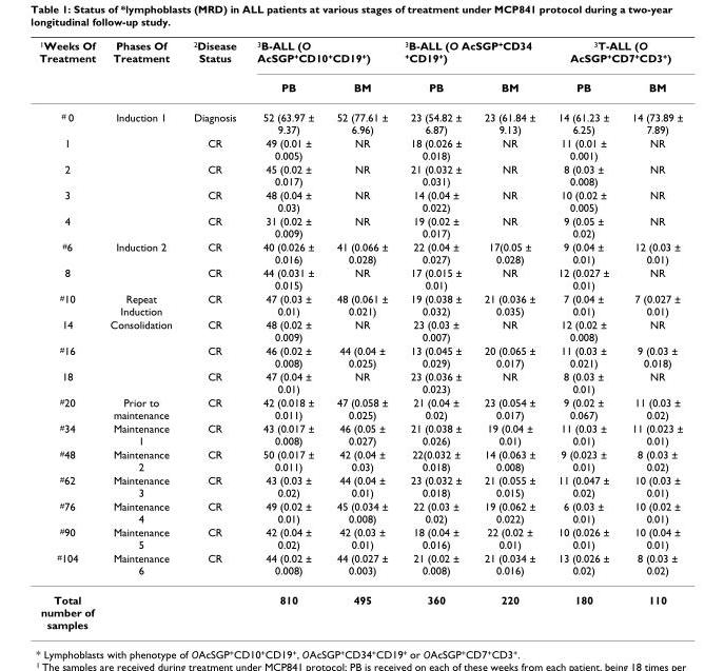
<table><thead><tr><td rowspan="2">1Weeks Of Treatment</td><td rowspan="2">Phases Of Treatment</td><td rowspan="2">2Disease Status</td><td colspan="2">3B-ALL (O AcSGP+CD10+CD19+)</td><td colspan="2">3B-ALL (O AcSGP+CD34 +CD19+)</td><td colspan="2">3T-ALL (O AcSGP+CD7+CD3+)</td></tr><tr><td>PB</td><td>BM</td><td>PB</td><td>BM</td><td>PB</td><td>BM</td></tr></thead><tbody><tr><td># 0</td><td>Induction 1</td><td>Diagnosis</td><td>52 (63.97 ± 9.37)</td><td>52 (77.61 ± 6.96)</td><td>23 (54.82 ± 6.87)</td><td>23 (61.84 ± 9.13)</td><td>14 (61.23 ± 6.25)</td><td>14 (73.89 ± 7.89)</td></tr><tr><td>1</td><td></td><td>CR</td><td>49 (0.01 ± 0.005)</td><td>NR</td><td>18 (0.026 ± 0.018)</td><td>NR</td><td>11 (0.01 ± 0.001)</td><td>NR</td></tr><tr><td>2</td><td></td><td>CR</td><td>45 (0.02 ± 0.017)</td><td>NR</td><td>21 (0.032 ± 0.031)</td><td>NR</td><td>8 (0.03 ± 0.008)</td><td>NR</td></tr><tr><td>3</td><td></td><td>CR</td><td>48 (0.04 ± 0.03)</td><td>NR</td><td>14 (0.04 ± 0.022)</td><td>NR</td><td>10 (0.02 ± 0.005)</td><td>NR</td></tr><tr><td>4</td><td></td><td>CR</td><td>31 (0.02 ± 0.009)</td><td>NR</td><td>19 (0.02 ± 0.017)</td><td>NR</td><td>9 (0.05 ± 0.02)</td><td>NR</td></tr><tr><td>#6</td><td>Induction 2</td><td>CR</td><td>40 (0.026 ± 0.016)</td><td>41 (0.066 ± 0.028)</td><td>22 (0.04 ± 0.027)</td><td>17(0.05 ± 0.028)</td><td>9 (0.04 ± 0.01)</td><td>12 (0.03 ± 0.01)</td></tr><tr><td>8</td><td></td><td>CR</td><td>44 (0.031 ± 0.015)</td><td>NR</td><td>17 (0.015 ± 0.01)</td><td>NR</td><td>12 (0.027 ± 0.01)</td><td>NR</td></tr><tr><td>#10</td><td>Repeat Induction</td><td>CR</td><td>47 (0.03 ± 0.01)</td><td>48 (0.061 ± 0.021)</td><td>19 (0.038 ± 0.032)</td><td>21 (0.036 ± 0.035)</td><td>7 (0.04 ± 0.01)</td><td>7 (0.027 ± 0.01)</td></tr><tr><td>14</td><td>Consolidation</td><td>CR</td><td>48 (0.02 ± 0.009)</td><td>NR</td><td>23 (0.03 ± 0.007)</td><td>NR</td><td>12 (0.02 ± 0.008)</td><td>NR</td></tr><tr><td>#16</td><td></td><td>CR</td><td>46 (0.02 ± 0.008)</td><td>44 (0.04 ± 0.025)</td><td>13 (0.045 ± 0.029)</td><td>20 (0.065 ± 0.017)</td><td>11 (0.03 ± 0.021)</td><td>9 (0.03 ± 0.018)</td></tr><tr><td>18</td><td></td><td>CR</td><td>47 (0.04 ± 0.01)</td><td>NR</td><td>23 (0.036 ± 0.023)</td><td>NR</td><td>8 (0.03 ± 0.01)</td><td>NR</td></tr><tr><td>#20</td><td>Prior to maintenance</td><td>CR</td><td>42 (0.018 ± 0.011)</td><td>47 (0.058 ± 0.025)</td><td>21 (0.04 ± 0.02)</td><td>23 (0.054 ± 0.017)</td><td>9 (0.02 ± 0.067)</td><td>11 (0.03 ± 0.02)</td></tr><tr><td>#34</td><td>Maintenance 1</td><td>CR</td><td>43 (0.017 ± 0.008)</td><td>46 (0.05 ± 0.027)</td><td>21 (0.038 ± 0.026)</td><td>19 (0.04 ± 0.01)</td><td>11 (0.03 ± 0.01)</td><td>11 (0.023 ± 0.01)</td></tr><tr><td>#48</td><td>Maintenance 2</td><td>CR</td><td>50 (0.017 ± 0.011)</td><td>42 (0.04 ± 0.03)</td><td>22(0.032 ± 0.018)</td><td>14 (0.063 ± 0.008)</td><td>9 (0.023 ± 0.01)</td><td>8 (0.03 ± 0.02)</td></tr><tr><td>#62</td><td>Maintenance 3</td><td>CR</td><td>43 (0.03 ± 0.02)</td><td>44 (0.04 ± 0.01)</td><td>23 (0.032 ± 0.018)</td><td>21 (0.055 ± 0.015)</td><td>11 (0.047 ± 0.02)</td><td>10 (0.03 ± 0.01)</td></tr><tr><td>#76</td><td>Maintenance 4</td><td>CR</td><td>49 (0.02 ± 0.01)</td><td>45 (0.034 ± 0.008)</td><td>22 (0.03 ± 0.02)</td><td>19 (0.062 ± 0.022)</td><td>6 (0.03 ± 0.01)</td><td>10 (0.02 ± 0.01)</td></tr><tr><td>#90</td><td>Maintenance 5</td><td>CR</td><td>42 (0.04 ± 0.02)</td><td>42 (0.03 ± 0.01)</td><td>18 (0.04 ± 0.016)</td><td>22 (0.02 ± 0.01)</td><td>10 (0.026 ± 0.01)</td><td>10 (0.04 ± 0.01)</td></tr><tr><td>#104</td><td>Maintenance 6</td><td>CR</td><td>44 (0.02 ± 0.008)</td><td>44 (0.027 ± 0.003)</td><td>21 (0.02 ± 0.008)</td><td>21 (0.034 ± 0.016)</td><td>13 (0.026 ± 0.02)</td><td>8 (0.03 ± 0.02)</td></tr><tr><td>Total number of samples</td><td></td><td></td><td>810</td><td>495</td><td>360</td><td>220</td><td>180</td><td>110</td></tr></tbody></table>